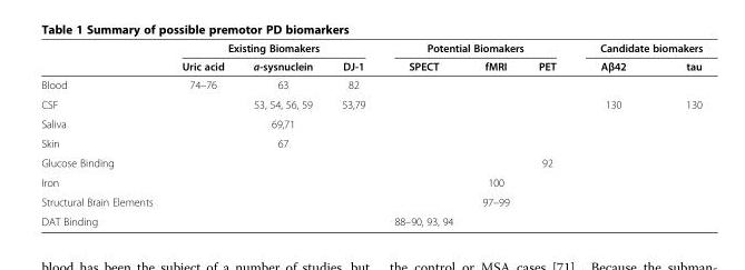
<table><thead><tr><td rowspan="2"></td><td colspan="3">Existing Biomakers</td><td colspan="3">Potential Biomakers</td><td colspan="2">Candidate biomakers</td></tr><tr><td>Uric acid</td><td>a-sysnuclein</td><td>DJ-1</td><td>SPECT</td><td>fMRI</td><td>PET</td><td>Aβ42</td><td>tau</td></tr></thead><tbody><tr><td>Blood</td><td>74–76</td><td>63</td><td>82</td><td></td><td></td><td></td><td></td><td></td></tr><tr><td>CSF</td><td></td><td>53, 54, 56, 59</td><td>53,79</td><td></td><td></td><td></td><td>130</td><td>130</td></tr><tr><td>Saliva</td><td></td><td>69,71</td><td></td><td></td><td></td><td></td><td></td><td></td></tr><tr><td>Skin</td><td></td><td>67</td><td></td><td></td><td></td><td></td><td></td><td></td></tr><tr><td>Glucose Binding</td><td></td><td></td><td></td><td></td><td></td><td>92</td><td></td><td></td></tr><tr><td>Iron</td><td></td><td></td><td></td><td></td><td>100</td><td></td><td></td><td></td></tr><tr><td>Structural Brain Elements</td><td></td><td></td><td></td><td></td><td>97–99</td><td></td><td></td><td></td></tr><tr><td>DAT Binding</td><td></td><td></td><td></td><td>88–90, 93, 94</td><td></td><td></td><td></td><td></td></tr></tbody></table>